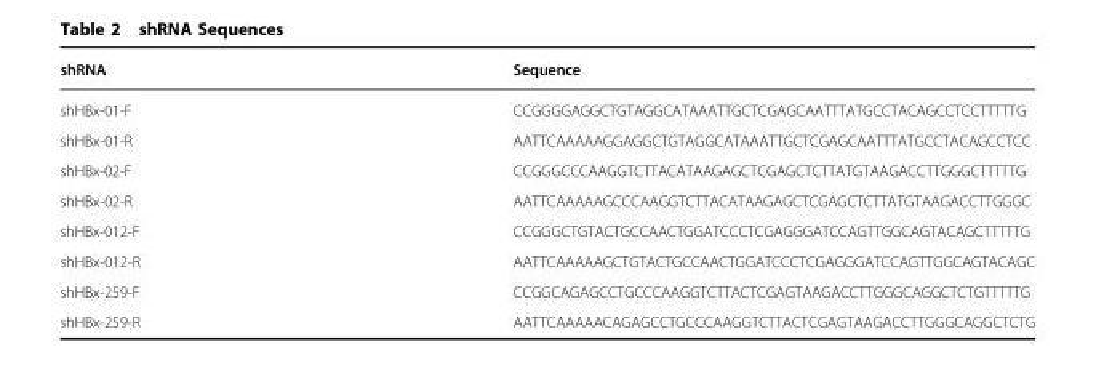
<table><thead><tr><td>shRNA</td><td>Sequence</td></tr></thead><tbody><tr><td>shHBx-01-F</td><td>CCGGGGAGGCTGTAGGCATAAATTGCTCGAGCAATTTATGCCTACAGCCTCCTTTTTG</td></tr><tr><td>shHBx-01-R</td><td>AATTCAAAAAGGAGGCTGTAGGCATAAATTGCTCGAGCAATTTATGCCTACAGCCTCC</td></tr><tr><td>shHBx-02-F</td><td>CCGGGCCCAAGGTCTTACATAAGAGCTCGAGCTCTTATGTAAGACCTTGGGCTTTTTG</td></tr><tr><td>shHBx-02-R</td><td>AATTCAAAAAGCCCAAGGTCTTACATAAGAGCTCGAGCTCTTATGTAAGACCTTGGGC</td></tr><tr><td>shHBx-012-F</td><td>CCGGGCTGTACTGCCAACTGGATCCCTCGAGGGATCCAGTTGGCAGTACAGCTTTTTG</td></tr><tr><td>shHBx-012-R</td><td>AATTCAAAAAGCTGTACTGCCAACTGGATCCCTCGAGGGATCCAGTTGGCAGTACAGC</td></tr><tr><td>shHBx-259-F</td><td>CCGGCAGAGCCTGCCCAAGGTCTTACTCGAGTAAGACCTTGGGCAGGCTCTGTTTTTG</td></tr><tr><td>shHBx-259-R</td><td>AATTCAAAAACAGAGCCTGCCCAAGGTCTTACTCGAGTAAGACCTTGGGCAGGCTCTG</td></tr></tbody></table>